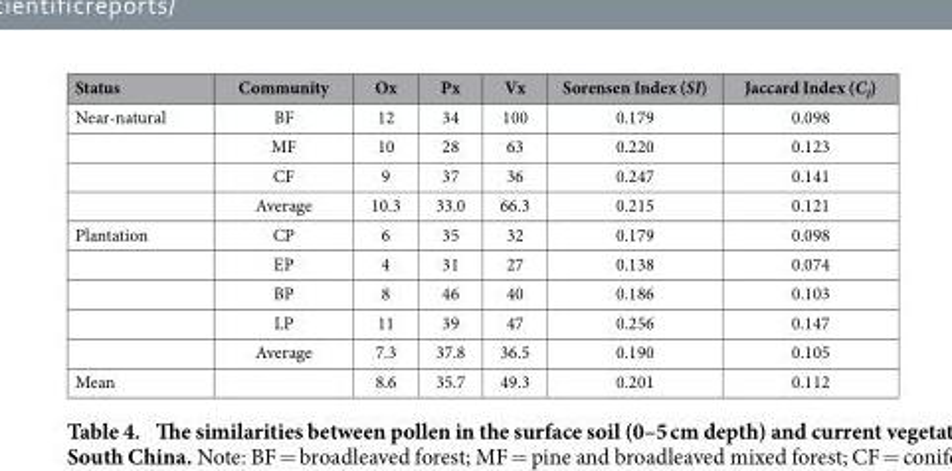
<table><thead><tr><td>Status</td><td>Community</td><td>Ox</td><td>Px</td><td>Vx</td><td>Sorensen Index (SI)</td><td>Jaccard Index (C<sub>J</sub>)</td></tr></thead><tbody><tr><td rowspan="4">Near-natural</td><td>BF</td><td>12</td><td>34</td><td>100</td><td>0.179</td><td>0.098</td></tr><tr><td>MF</td><td>10</td><td>28</td><td>63</td><td>0.220</td><td>0.123</td></tr><tr><td>CF</td><td>9</td><td>37</td><td>36</td><td>0.247</td><td>0.141</td></tr><tr><td>Average</td><td>10.3</td><td>33.0</td><td>66.3</td><td>0.215</td><td>0.121</td></tr><tr><td rowspan="5">Plantation</td><td>CP</td><td>6</td><td>35</td><td>32</td><td>0.179</td><td>0.098</td></tr><tr><td>EP</td><td>4</td><td>31</td><td>27</td><td>0.138</td><td>0.074</td></tr><tr><td>BP</td><td>8</td><td>46</td><td>40</td><td>0.186</td><td>0.103</td></tr><tr><td>LP</td><td>11</td><td>39</td><td>47</td><td>0.256</td><td>0.147</td></tr><tr><td>Average</td><td>7.3</td><td>37.8</td><td>36.5</td><td>0.190</td><td>0.105</td></tr><tr><td>Mean</td><td></td><td>8.6</td><td>35.7</td><td>49.3</td><td>0.201</td><td>0.112</td></tr></tbody></table>